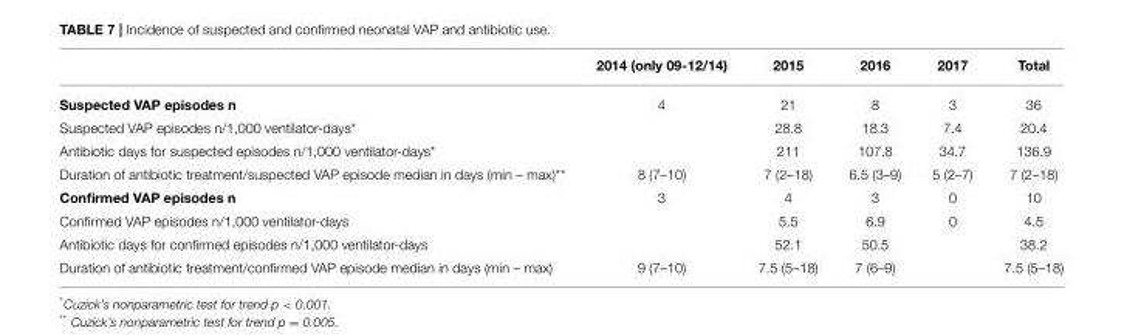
<table><thead><tr><td></td><td>2014 (only 09-12/14)</td><td>2015</td><td>2016</td><td>2017</td><td>Total</td></tr></thead><tbody><tr><td>Suspected VAP episodes n</td><td>4</td><td>21</td><td>8</td><td>3</td><td>36</td></tr><tr><td>Suspected VAP episodes n/1,000 ventilator-days*</td><td></td><td>28.8</td><td>18.3</td><td>7.4</td><td>20.4</td></tr><tr><td>Antibiotic days for suspected episodes n/1,000 ventilator-days*</td><td></td><td>211</td><td>107.8</td><td>34.7</td><td>136.9</td></tr><tr><td>Duration of antibiotic treatment/suspected VAP episode median in days (min – max)**</td><td>8 (7–10)</td><td>7 (2–18)</td><td>6.5 (3–9)</td><td>5 (2–7)</td><td>7 (2–18)</td></tr><tr><td>Confirmed VAP episodes n</td><td>3</td><td>4</td><td>3</td><td>0</td><td>10</td></tr><tr><td>Confirmed VAP episodes n/1,000 ventilator-days</td><td></td><td>5.5</td><td>6.9</td><td>0</td><td>4.5</td></tr><tr><td>Antibiotic days for confirmed episodes n/1,000 ventilator-days</td><td></td><td>52.1</td><td>50.5</td><td></td><td>38.2</td></tr><tr><td>Duration of antibiotic treatment/confirmed VAP episode median in days (min – max)</td><td>9 (7–10)</td><td>7.5 (5–18)</td><td>7 (6–9)</td><td></td><td>7.5 (5–18)</td></tr></tbody></table>